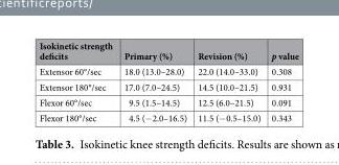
<table><thead><tr><td>Isokinetic strength deficits</td><td>Primary (%)</td><td>Revision (%)</td><td>p value</td></tr></thead><tbody><tr><td>Extensor 60°/sec</td><td>18.0 (13.0–28.0)</td><td>22.0 (14.0–33.0)</td><td>0.308</td></tr><tr><td>Extensor 180°/sec</td><td>17.0 (7.0–24.5)</td><td>14.5 (10.0–21.5)</td><td>0.931</td></tr><tr><td>Flexor 60°/sec</td><td>9.5 (1.5–14.5)</td><td>12.5 (6.0–21.5)</td><td>0.091</td></tr><tr><td>Flexor 180°/sec</td><td>4.5 (−2.0–16.5)</td><td>11.5 (−0.5–15.0)</td><td>0.343</td></tr></tbody></table>